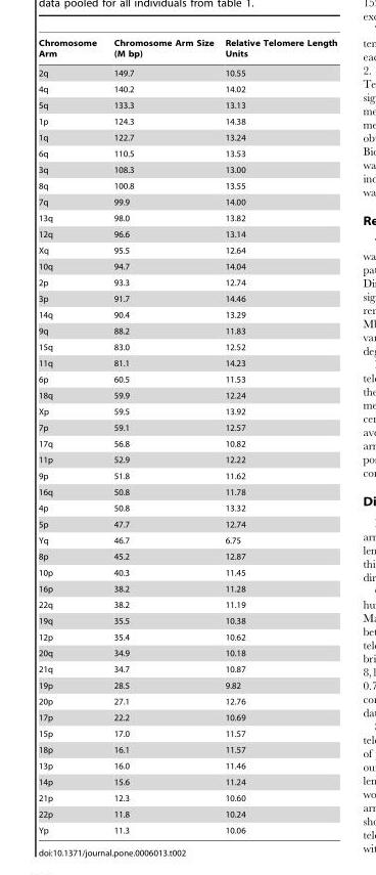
<table><thead><tr><td>Chromosome Arm</td><td>Chromosome Arm Size (M bp)</td><td>Relative Telomere Length Units</td></tr></thead><tbody><tr><td>2q</td><td>149.7</td><td>10.55</td></tr><tr><td>4q</td><td>140.2</td><td>14.02</td></tr><tr><td>5q</td><td>133.3</td><td>13.13</td></tr><tr><td>1p</td><td>124.3</td><td>14.38</td></tr><tr><td>1q</td><td>122.7</td><td>13.24</td></tr><tr><td>6q</td><td>110.5</td><td>13.53</td></tr><tr><td>3q</td><td>108.3</td><td>13.00</td></tr><tr><td>8q</td><td>100.8</td><td>13.55</td></tr><tr><td>7q</td><td>99.9</td><td>14.00</td></tr><tr><td>13q</td><td>98.0</td><td>13.82</td></tr><tr><td>12q</td><td>96.6</td><td>13.14</td></tr><tr><td>Xq</td><td>95.5</td><td>12.64</td></tr><tr><td>10q</td><td>94.7</td><td>14.04</td></tr><tr><td>2p</td><td>93.3</td><td>12.74</td></tr><tr><td>3p</td><td>91.7</td><td>14.46</td></tr><tr><td>14q</td><td>90.4</td><td>13.29</td></tr><tr><td>9q</td><td>88.2</td><td>11.83</td></tr><tr><td>15q</td><td>83.0</td><td>12.52</td></tr><tr><td>11q</td><td>81.1</td><td>14.23</td></tr><tr><td>6p</td><td>60.5</td><td>11.53</td></tr><tr><td>18q</td><td>59.9</td><td>12.24</td></tr><tr><td>Xp</td><td>59.5</td><td>13.92</td></tr><tr><td>7p</td><td>59.1</td><td>12.57</td></tr><tr><td>17q</td><td>56.8</td><td>10.82</td></tr><tr><td>11p</td><td>52.9</td><td>12.22</td></tr><tr><td>9p</td><td>51.8</td><td>11.62</td></tr><tr><td>16q</td><td>50.8</td><td>11.78</td></tr><tr><td>4p</td><td>50.8</td><td>13.32</td></tr><tr><td>5p</td><td>47.7</td><td>12.74</td></tr><tr><td>Yq</td><td>46.7</td><td>6.75</td></tr><tr><td>8p</td><td>45.2</td><td>12.87</td></tr><tr><td>10p</td><td>40.3</td><td>11.45</td></tr><tr><td>16p</td><td>38.2</td><td>11.28</td></tr><tr><td>22q</td><td>38.2</td><td>11.19</td></tr><tr><td>19q</td><td>35.5</td><td>10.38</td></tr><tr><td>12p</td><td>35.4</td><td>10.62</td></tr><tr><td>20q</td><td>34.9</td><td>10.18</td></tr><tr><td>21q</td><td>34.7</td><td>10.87</td></tr><tr><td>19p</td><td>28.5</td><td>9.82</td></tr><tr><td>20p</td><td>27.1</td><td>12.76</td></tr><tr><td>17p</td><td>22.2</td><td>10.69</td></tr><tr><td>15p</td><td>17.0</td><td>11.57</td></tr><tr><td>18p</td><td>16.1</td><td>11.57</td></tr><tr><td>13p</td><td>16.0</td><td>11.46</td></tr><tr><td>14p</td><td>15.6</td><td>11.24</td></tr><tr><td>21p</td><td>12.3</td><td>10.60</td></tr><tr><td>22p</td><td>11.8</td><td>10.24</td></tr><tr><td>Yp</td><td>11.3</td><td>10.06</td></tr></tbody></table>